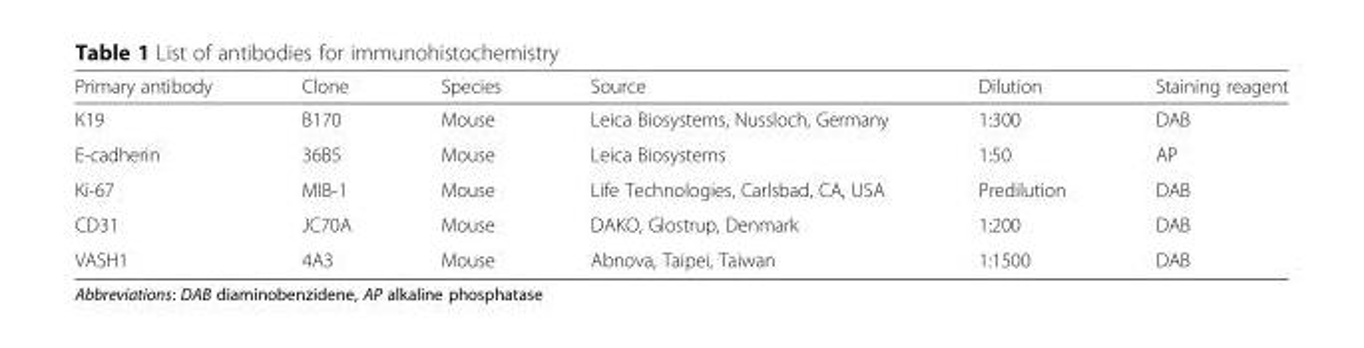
<table><thead><tr><td>Primary antibody</td><td>Clone</td><td>Species</td><td>Source</td><td>Dilution</td><td>Staining reagent</td></tr></thead><tbody><tr><td>K19</td><td>B170</td><td>Mouse</td><td>Leica Biosystems, Nussloch, Germany</td><td>1:300</td><td>DAB</td></tr><tr><td>E-cadherin</td><td>36B5</td><td>Mouse</td><td>Leica Biosystems</td><td>1:50</td><td>AP</td></tr><tr><td>Ki-67</td><td>MIB-1</td><td>Mouse</td><td>Life Technologies, Carlsbad, CA, USA</td><td>Predilution</td><td>DAB</td></tr><tr><td>CD31</td><td>JC70A</td><td>Mouse</td><td>DAKO, Glostrup, Denmark</td><td>1:200</td><td>DAB</td></tr><tr><td>VASH1</td><td>4A3</td><td>Mouse</td><td>Abnova, Taipei, Taiwan</td><td>1:1500</td><td>DAB</td></tr></tbody></table>